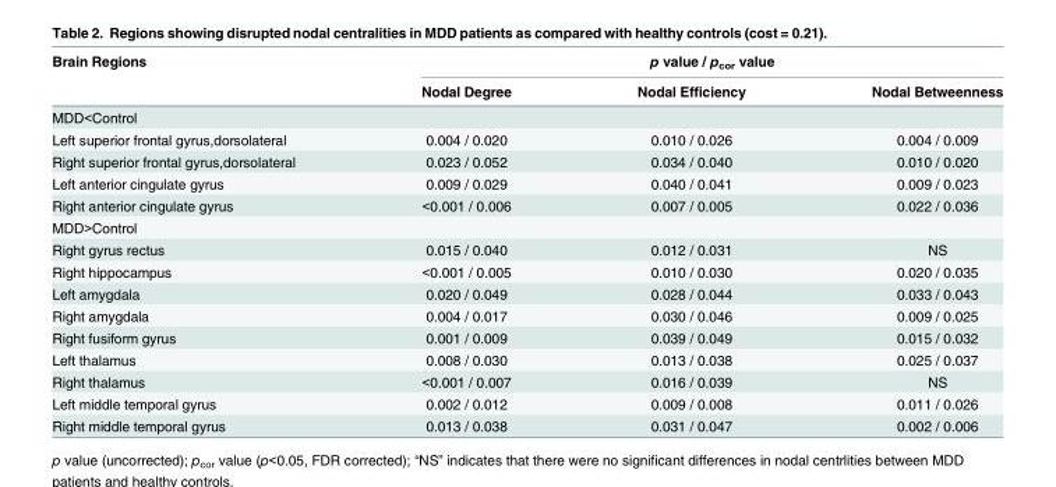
<table><thead><tr><td rowspan="2">Brain Regions</td><td colspan="3">p value / p<sub>cor</sub> value</td></tr><tr><td>Nodal Degree</td><td>Nodal Efficiency</td><td>Nodal Betweenness</td></tr></thead><tbody><tr><td colspan="4">MDD&lt;Control</td></tr><tr><td>Left superior frontal gyrus,dorsolateral</td><td>0.004 / 0.020</td><td>0.010 / 0.026</td><td>0.004 / 0.009</td></tr><tr><td>Right superior frontal gyrus,dorsolateral</td><td>0.023 / 0.052</td><td>0.034 / 0.040</td><td>0.010 / 0.020</td></tr><tr><td>Left anterior cingulate gyrus</td><td>0.009 / 0.029</td><td>0.040 / 0.041</td><td>0.009 / 0.023</td></tr><tr><td>Right anterior cingulate gyrus</td><td>&lt;0.001 / 0.006</td><td>0.007 / 0.005</td><td>0.022 / 0.036</td></tr><tr><td colspan="4">MDD&gt;Control</td></tr><tr><td>Right gyrus rectus</td><td>0.015 / 0.040</td><td>0.012 / 0.031</td><td>NS</td></tr><tr><td>Right hippocampus</td><td>&lt;0.001 / 0.005</td><td>0.010 / 0.030</td><td>0.020 / 0.035</td></tr><tr><td>Left amygdala</td><td>0.020 / 0.049</td><td>0.028 / 0.044</td><td>0.033 / 0.043</td></tr><tr><td>Right amygdala</td><td>0.004 / 0.017</td><td>0.030 / 0.046</td><td>0.009 / 0.025</td></tr><tr><td>Right fusiform gyrus</td><td>0.001 / 0.009</td><td>0.039 / 0.049</td><td>0.015 / 0.032</td></tr><tr><td>Left thalamus</td><td>0.008 / 0.030</td><td>0.013 / 0.038</td><td>0.025 / 0.037</td></tr><tr><td>Right thalamus</td><td>&lt;0.001 / 0.007</td><td>0.016 / 0.039</td><td>NS</td></tr><tr><td>Left middle temporal gyrus</td><td>0.002 / 0.012</td><td>0.009 / 0.008</td><td>0.011 / 0.026</td></tr><tr><td>Right middle temporal gyrus</td><td>0.013 / 0.038</td><td>0.031 / 0.047</td><td>0.002 / 0.006</td></tr></tbody></table>